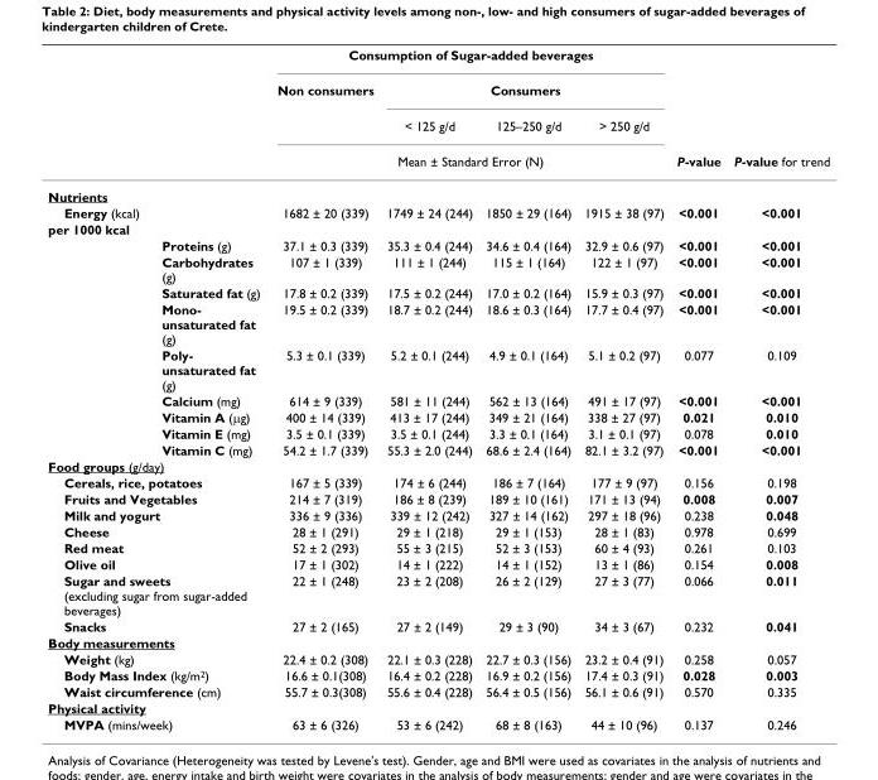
<table><thead><tr><td rowspan="4"></td><td rowspan="4"></td><td colspan="4">Consumption of Sugar-added beverages</td><td rowspan="4">P-value</td><td rowspan="4">P-value for trend</td></tr><tr><td rowspan="2">Non consumers</td><td colspan="3">Consumers</td></tr><tr><td>&lt; 125 g/d</td><td>125–250 g/d</td><td>&gt; 250 g/d</td></tr><tr><td colspan="4">Mean ± Standard Error (N)</td></tr></thead><tbody><tr><td colspan="8">Nutrients</td></tr><tr><td colspan="2">Energy (kcal)</td><td>1682 ± 20 (339)</td><td>1749 ± 24 (244)</td><td>1850 ± 29 (164)</td><td>1915 ± 38 (97)</td><td>&lt;0.001</td><td>&lt;0.001</td></tr><tr><td colspan="8">per 1000 kcal</td></tr><tr><td></td><td>Proteins (g)</td><td>37.1 ± 0.3 (339)</td><td>35.3 ± 0.4 (244)</td><td>34.6 ± 0.4 (164)</td><td>32.9 ± 0.6 (97)</td><td>&lt;0.001</td><td>&lt;0.001</td></tr><tr><td></td><td>Carbohydrates (g)</td><td>107 ± 1 (339)</td><td>111 ± 1 (244)</td><td>115 ± 1 (164)</td><td>122 ± 1 (97)</td><td>&lt;0.001</td><td>&lt;0.001</td></tr><tr><td></td><td>Saturated fat (g)</td><td>17.8 ± 0.2 (339)</td><td>17.5 ± 0.2 (244)</td><td>17.0 ± 0.2 (164)</td><td>15.9 ± 0.3 (97)</td><td>&lt;0.001</td><td>&lt;0.001</td></tr><tr><td></td><td>Mono- unsaturated fat (g)</td><td>19.5 ± 0.2 (339)</td><td>18.7 ± 0.2 (244)</td><td>18.6 ± 0.3 (164)</td><td>17.7 ± 0.4 (97)</td><td>&lt;0.001</td><td>&lt;0.001</td></tr><tr><td></td><td>Poly- unsaturated fat (g)</td><td>5.3 ± 0.1 (339)</td><td>5.2 ± 0.1 (244)</td><td>4.9 ± 0.1 (164)</td><td>5.1 ± 0.2 (97)</td><td>0.077</td><td>0.109</td></tr><tr><td></td><td>Calcium (mg)</td><td>614 ± 9 (339)</td><td>581 ± 11 (244)</td><td>562 ± 13 (164)</td><td>491 ± 17 (97)</td><td>&lt;0.001</td><td>&lt;0.001</td></tr><tr><td></td><td>Vitamin A (μg)</td><td>400 ± 14 (339)</td><td>413 ± 17 (244)</td><td>349 ± 21 (164)</td><td>338 ± 27 (97)</td><td>0.021</td><td>0.010</td></tr><tr><td></td><td>Vitamin E (mg)</td><td>3.5 ± 0.1 (339)</td><td>3.5 ± 0.1 (244)</td><td>3.3 ± 0.1 (164)</td><td>3.1 ± 0.1 (97)</td><td>0.078</td><td>0.010</td></tr><tr><td></td><td>Vitamin C (mg)</td><td>54.2 ± 1.7 (339)</td><td>55.3 ± 2.0 (244)</td><td>68.6 ± 2.4 (164)</td><td>82.1 ± 3.2 (97)</td><td>&lt;0.001</td><td>&lt;0.001</td></tr><tr><td colspan="8">Food groups (g/day)</td></tr><tr><td colspan="2">Cereals, rice, potatoes</td><td>167 ± 5 (339)</td><td>174 ± 6 (244)</td><td>186 ± 7 (164)</td><td>177 ± 9 (97)</td><td>0.156</td><td>0.198</td></tr><tr><td colspan="2">Fruits and Vegetables</td><td>214 ± 7 (319)</td><td>186 ± 8 (239)</td><td>189 ± 10 (161)</td><td>171 ± 13 (94)</td><td>0.008</td><td>0.007</td></tr><tr><td colspan="2">Milk and yogurt</td><td>336 ± 9 (336)</td><td>339 ± 12 (242)</td><td>327 ± 14 (162)</td><td>297 ± 18 (96)</td><td>0.238</td><td>0.048</td></tr><tr><td colspan="2">Cheese</td><td>28 ± 1 (291)</td><td>29 ± 1 (218)</td><td>29 ± 1 (153)</td><td>28 ± 1 (83)</td><td>0.978</td><td>0.699</td></tr><tr><td colspan="2">Red meat</td><td>52 ± 2 (293)</td><td>55 ± 3 (215)</td><td>52 ± 3 (153)</td><td>60 ± 4 (93)</td><td>0.261</td><td>0.103</td></tr><tr><td colspan="2">Olive oil</td><td>17 ± 1 (302)</td><td>14 ± 1 (222)</td><td>14 ± 1 (152)</td><td>13 ± 1 (86)</td><td>0.154</td><td>0.008</td></tr><tr><td colspan="2">Sugar and sweets (excluding sugar from sugar-added beverages)</td><td>22 ± 1 (248)</td><td>23 ± 2 (208)</td><td>26 ± 2 (129)</td><td>27 ± 3 (77)</td><td>0.066</td><td>0.011</td></tr><tr><td colspan="2">Snacks</td><td>27 ± 2 (165)</td><td>27 ± 2 (149)</td><td>29 ± 3 (90)</td><td>34 ± 3 (67)</td><td>0.232</td><td>0.041</td></tr><tr><td colspan="8">Body measurements</td></tr><tr><td colspan="2">Weight (kg)</td><td>22.4 ± 0.2 (308)</td><td>22.1 ± 0.3 (228)</td><td>22.7 ± 0.3 (156)</td><td>23.2 ± 0.4 (91)</td><td>0.258</td><td>0.057</td></tr><tr><td colspan="2">Body Mass Index (kg/m<sup>2</sup>)</td><td>16.6 ± 0.1(308)</td><td>16.4 ± 0.2 (228)</td><td>16.9 ± 0.2 (156)</td><td>17.4 ± 0.3 (91)</td><td>0.028</td><td>0.003</td></tr><tr><td colspan="2">Waist circumference (cm)</td><td>55.7 ± 0.3(308)</td><td>55.6 ± 0.4 (228)</td><td>56.4 ± 0.5 (156)</td><td>56.1 ± 0.6 (91)</td><td>0.570</td><td>0.335</td></tr><tr><td colspan="8">Physical activity</td></tr><tr><td colspan="2">MVPA (mins/week)</td><td>63 ± 6 (326)</td><td>53 ± 6 (242)</td><td>68 ± 8 (163)</td><td>44 ± 10 (96)</td><td>0.137</td><td>0.246</td></tr></tbody></table>